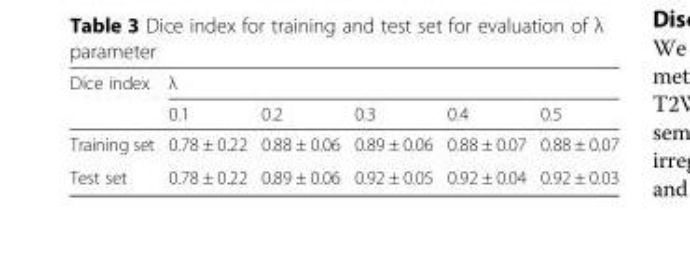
<table><thead><tr><td rowspan="2">Dice index</td><td colspan="5">λ</td></tr><tr><td>0.1</td><td>0.2</td><td>0.3</td><td>0.4</td><td>0.5</td></tr></thead><tbody><tr><td>Training set</td><td>0.78 ± 0.22</td><td>0.88 ± 0.06</td><td>0.89 ± 0.06</td><td>0.88 ± 0.07</td><td>0.88 ± 0.07</td></tr><tr><td>Test set</td><td>0.78 ± 0.22</td><td>0.89 ± 0.06</td><td>0.92 ± 0.05</td><td>0.92 ± 0.04</td><td>0.92 ± 0.03</td></tr></tbody></table>